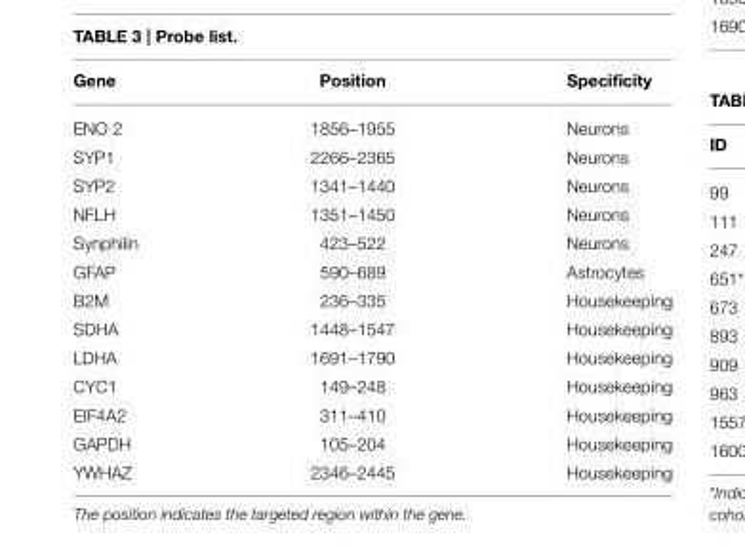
<table><thead><tr><td>Gene</td><td>Position</td><td>Specificity</td></tr></thead><tbody><tr><td>ENO 2</td><td>1856–1955</td><td>Neurons</td></tr><tr><td>SYP1</td><td>2266–2365</td><td>Neurons</td></tr><tr><td>SYP2</td><td>1341–1440</td><td>Neurons</td></tr><tr><td>NFLH</td><td>1351–1450</td><td>Neurons</td></tr><tr><td>Synphilin</td><td>423–522</td><td>Neurons</td></tr><tr><td>GFAP</td><td>590–689</td><td>Astrocytes</td></tr><tr><td>B2M</td><td>236–335</td><td>Housekeeping</td></tr><tr><td>SDHA</td><td>1448–1547</td><td>Housekeeping</td></tr><tr><td>LDHA</td><td>1691–1790</td><td>Housekeeping</td></tr><tr><td>CYC1</td><td>149–248</td><td>Housekeeping</td></tr><tr><td>EIF4A2</td><td>311–410</td><td>Housekeeping</td></tr><tr><td>GAPDH</td><td>105–204</td><td>Housekeeping</td></tr><tr><td>YWHAZ</td><td>2346–2445</td><td>Housekeeping</td></tr></tbody></table>